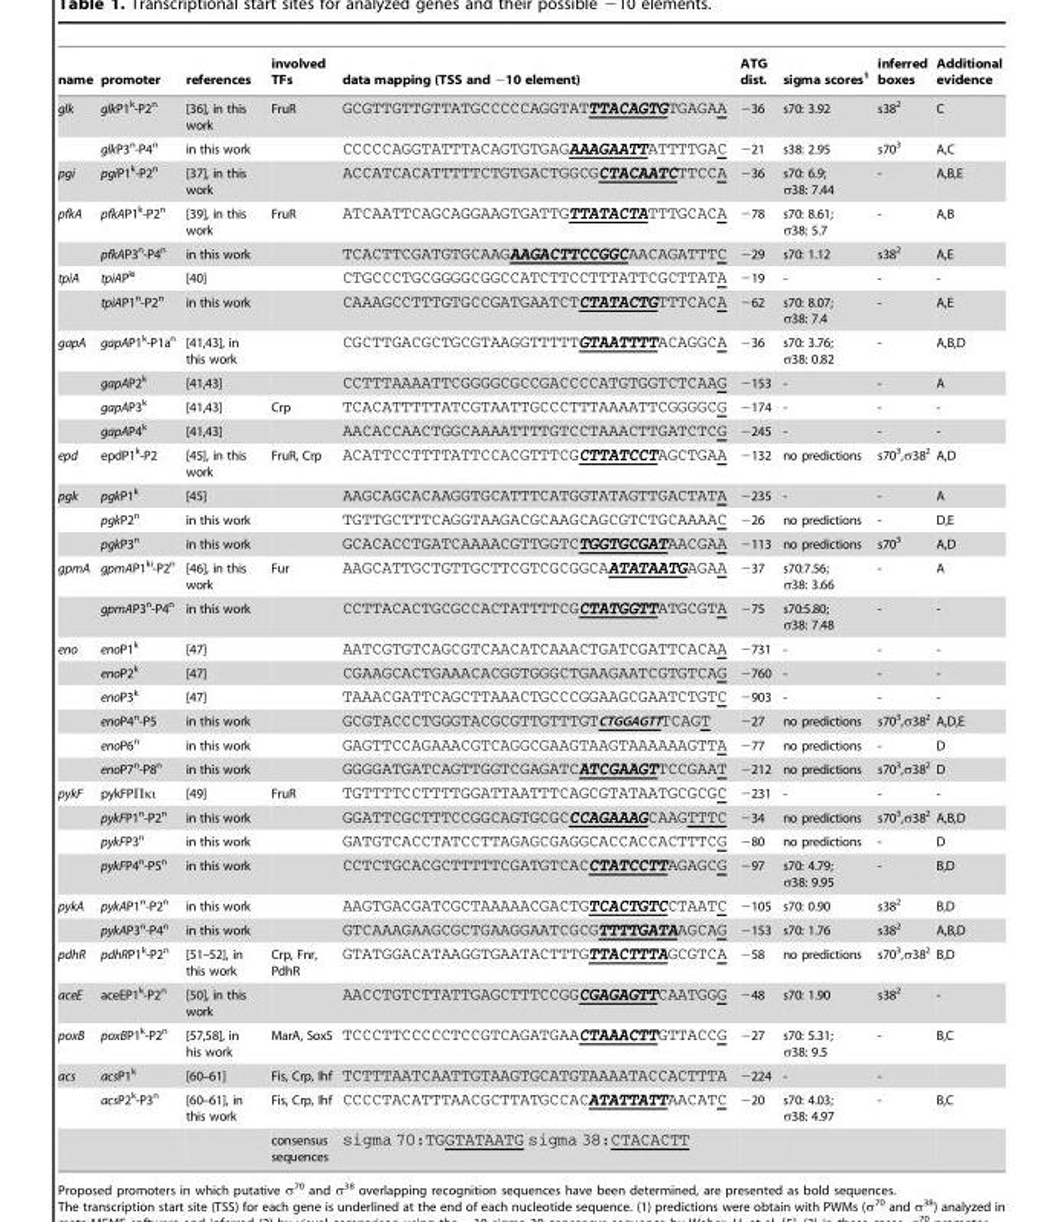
<table><thead><tr><td>name</td><td>promoter</td><td>references</td><td>involved TFs</td><td>data mapping (TSS and −10 element)</td><td>ATG dist.</td><td>sigma scores<sup>1</sup></td><td>inferred boxes</td><td>Additional evidence</td></tr></thead><tbody><tr><td rowspan="2">glk</td><td>glkP1<sup>k</sup>-P2<sup>n</sup></td><td>[36], in this work</td><td>FruR</td><td>GCGTTGTTGTTATGCCCCCAGGTATTTACAGTGTGAGAA</td><td>−36</td><td>s70: 3.92</td><td>s38<sup>2</sup></td><td>C</td></tr><tr><td>glkP3<sup>n</sup>-P4<sup>n</sup></td><td>in this work</td><td></td><td>CCCCCAGGTATTTACAGTGTGAGAAAGAATTATTTTGAC</td><td>−21</td><td>s38: 2.95</td><td>s70<sup>3</sup></td><td>A,C</td></tr><tr><td>pgi</td><td>pgiP1<sup>k</sup>-P2<sup>n</sup></td><td>[37], in this work</td><td></td><td>ACCATCACATTTTTCTGTGACTGGCGCTACAATCTTCCA</td><td>−36</td><td>s70: 6.9; σ38: 7.44</td><td>-</td><td>A,B,E</td></tr><tr><td rowspan="2">pfkA</td><td>pfkAP1<sup>k</sup>-P2<sup>n</sup></td><td>[39], in this work</td><td>FruR</td><td>ATCAATTCAGCAGGAAGTGATTGTTATACTATTTGCACA</td><td>−78</td><td>s70: 8.61; σ38: 5.7</td><td>-</td><td>A,B</td></tr><tr><td>pfkAP3<sup>n</sup>-P4<sup>n</sup></td><td>in this work</td><td></td><td>TCACTTCGATGTGCAAGAAGACTTCCGGCAACAGATTTC</td><td>−29</td><td>s70: 1.12</td><td>s38<sup>2</sup></td><td>A,E</td></tr><tr><td rowspan="2">tpiA</td><td>tpiAP<sup>ki</sup></td><td>[40]</td><td></td><td>CTGCCCTGCGGGGCGGCCATCTTCCTTTATTCGCTTATA</td><td>−19</td><td>-</td><td>-</td><td>-</td></tr><tr><td>tpiAP1<sup>n</sup>-P2<sup>n</sup></td><td>in this work</td><td></td><td>CAAAGCCTTTGTGCCGATGAATCTCTATACTGTTTCACA</td><td>−62</td><td>s70: 8.07; σ38: 7.4</td><td>-</td><td>A,E</td></tr><tr><td rowspan="4">gapA</td><td>gapAP1<sup>k</sup>-P1a<sup>n</sup></td><td>[41,43], in this work</td><td></td><td>CGCTTGACGCTGCGTAAGGTTTTTGTAATTTTACAGGCA</td><td>−36</td><td>s70: 3.76; σ38: 0.82</td><td>-</td><td>A,B,D</td></tr><tr><td>gapAP2<sup>k</sup></td><td>[41,43]</td><td></td><td>CCTTTAAAATTCGGGGCGCCGACCCCATGTGGTCTCAAG</td><td>−153</td><td>-</td><td>-</td><td>A</td></tr><tr><td>gapAP3<sup>k</sup></td><td>[41,43]</td><td>Crp</td><td>TCACATTTTTATCGTAATTGCCCTTTAAAATTCGGGGCG</td><td>−174</td><td>-</td><td>-</td><td>-</td></tr><tr><td>gapAP4<sup>k</sup></td><td>[41,43]</td><td></td><td>AACACCAACTGGCAAAATTTTGTCCTAAACTTGATCTCG</td><td>−245</td><td>-</td><td>-</td><td>-</td></tr><tr><td>epd</td><td>epdP1<sup>k</sup>-P2</td><td>[45], in this work</td><td>FruR, Crp</td><td>ACATTCCTTTTATTCCACGTTTCGCTTATCCTAGCTGAA</td><td>−132</td><td>no predictions</td><td>s70<sup>3</sup>,σ38<sup>2</sup></td><td>A,D</td></tr><tr><td rowspan="3">pgk</td><td>pgkP1<sup>k</sup></td><td>[45]</td><td></td><td>AAGCAGCACAAGGTGCATTTCATGGTATAGTTGACTATA</td><td>−235</td><td>-</td><td>-</td><td>A</td></tr><tr><td>pgkP2<sup>n</sup></td><td>in this work</td><td></td><td>TGTTGCTTTCAGGTAAGACGCAAGCAGCGTCTGCAAAAC</td><td>−26</td><td>no predictions</td><td>-</td><td>D,E</td></tr><tr><td>pgkP3<sup>n</sup></td><td>in this work</td><td></td><td>GCACACCTGATCAAAACGTTGGTCTGGTGCGATAACGAA</td><td>−113</td><td>no predictions</td><td>s70<sup>3</sup></td><td>A,D</td></tr><tr><td rowspan="2">gpmA</td><td>gpmAP1<sup>ki</sup>-P2<sup>n</sup></td><td>[46], in this work</td><td>Fur</td><td>AAGCATTGCTGTTGCTTCGTCGCGGCAATATAATGAGAA</td><td>−37</td><td>s70:7.56; σ38: 3.66</td><td>-</td><td>A</td></tr><tr><td>gpmAP3<sup>n</sup>-P4<sup>n</sup></td><td>in this work</td><td></td><td>CCTTACACTGCGCCACTATTTTCGCTATGGTTATGCGTA</td><td>−75</td><td>s70:5.80; σ38: 7.48</td><td>-</td><td>-</td></tr><tr><td rowspan="6">eno</td><td>enoP1<sup>k</sup></td><td>[47]</td><td></td><td>AATCGTGTCAGCGTCAACATCAAACTGATCGATTCACAA</td><td>−731</td><td>-</td><td>-</td><td>-</td></tr><tr><td>enoP2<sup>k</sup></td><td>[47]</td><td></td><td>CGAAGCACTGAAACACGGTGGGCTGAAGAATCGTGTCAG</td><td>−760</td><td>-</td><td>-</td><td>-</td></tr><tr><td>enoP3<sup>k</sup></td><td>[47]</td><td></td><td>TAAACGATTCAGCTTAAACTGCCCGGAAGCGAATCTGTC</td><td>−903</td><td>-</td><td>-</td><td>-</td></tr><tr><td>enoP4<sup>n</sup>-P5</td><td>in this work</td><td></td><td>GCGTACCCTGGGTACGCGTTGTTTGTCTGGAGTTTCAGT</td><td>−27</td><td>no predictions</td><td>s70<sup>3</sup>,σ38<sup>2</sup></td><td>A,D,E</td></tr><tr><td>enoP6<sup>n</sup></td><td>in this work</td><td></td><td>GAGTTCCAGAAACGTCAGGCGAAGTAAGTAAAAAAGTTA</td><td>−77</td><td>no predictions</td><td>-</td><td>D</td></tr><tr><td>enoP7<sup>n</sup>-P8<sup>n</sup></td><td>in this work</td><td></td><td>GGGGATGATCAGTTGGTCGAGATCATCGAAGTTCCGAAT</td><td>−212</td><td>no predictions</td><td>s70<sup>3</sup>,σ38<sup>2</sup></td><td>D</td></tr><tr><td rowspan="4">pykF</td><td>pykFPΠκι</td><td>[49]</td><td>FruR</td><td>TGTTTTCCTTTTGGATTAATTTCAGCGTATAATGCGCGC</td><td>−231</td><td>-</td><td>-</td><td>-</td></tr><tr><td>pykFP1<sup>n</sup>-P2<sup>n</sup></td><td>in this work</td><td></td><td>GGATTCGCTTTCCGGCAGTGCGCCCAGAAAGCAAGTTTC</td><td>−34</td><td>no predictions</td><td>s70<sup>3</sup>,σ38<sup>2</sup></td><td>A,B,D</td></tr><tr><td>pykFP3<sup>n</sup></td><td>in this work</td><td></td><td>GATGTCACCTATCCTTAGAGCGAGGCACCACCACTTTCG</td><td>−80</td><td>no predictions</td><td>-</td><td>D</td></tr><tr><td>pykFP4<sup>n</sup>-P5<sup>n</sup></td><td>in this work</td><td></td><td>CCTCTGCACGCTTTTTCGATGTCACCTATCCTTAGAGCG</td><td>−97</td><td>s70: 4.79; σ38: 9.95</td><td>-</td><td>B,D</td></tr><tr><td rowspan="2">pykA</td><td>pykAP1<sup>n</sup>-P2<sup>n</sup></td><td>in this work</td><td></td><td>AAGTGACGATCGCTAAAAACGACTGTCACTGTCCTAATC</td><td>−105</td><td>s70: 0.90</td><td>s38<sup>2</sup></td><td>B,D</td></tr><tr><td>pykAP3<sup>n</sup>-P4<sup>n</sup></td><td>in this work</td><td></td><td>GTCAAAGAAGCGCTGAAGGAATCGCGTTTTGATAAGCAG</td><td>−153</td><td>s70: 1.76</td><td>s38<sup>2</sup></td><td>A,B,D</td></tr><tr><td>pdhR</td><td>pdhRP1<sup>k</sup>-P2<sup>n</sup></td><td>[51–52], in this work</td><td>Crp, Fnr, PdhR</td><td>GTATGGACATAAGGTGAATACTTTGTTACTTTAGCGTCA</td><td>−58</td><td>no predictions</td><td>s70<sup>3</sup>,σ38<sup>2</sup></td><td>B,D</td></tr><tr><td>aceE</td><td>aceEP1<sup>k</sup>-P2<sup>n</sup></td><td>[50], in this work</td><td></td><td>AACCTGTCTTATTGAGCTTTCCGGCGAGAGTTCAATGGG</td><td>−48</td><td>s70: 1.90</td><td>s38<sup>2</sup></td><td>-</td></tr><tr><td>poxB</td><td>poxBP1<sup>k</sup>-P2<sup>n</sup></td><td>[57,58], in his work</td><td>MarA, SoxS</td><td>TCCCTTCCCCCTCCGTCAGATGAACTAAACTTGTTACCG</td><td>−27</td><td>s70: 5.31; σ38: 9.5</td><td>-</td><td>B,C</td></tr><tr><td rowspan="3">acs</td><td>acsP1<sup>k</sup></td><td>[60–61]</td><td>Fis, Crp, Ihf</td><td>TCTTTAATCAATTGTAAGTGCATGTAAAATACCACTTTA</td><td>−224</td><td>-</td><td>-</td><td></td></tr><tr><td>acsP2<sup>k</sup>-P3<sup>n</sup></td><td>[60–61], in this work</td><td>Fis, Crp, Ihf</td><td>CCCCTACATTTAACGCTTATGCCACATATTATTAACATC</td><td>−20</td><td>s70: 4.03; σ38: 4.97</td><td>-</td><td>B,C</td></tr><tr><td></td><td></td><td>consensus sequences</td><td>sigma 70:TGGTATAATG sigma 38:CTACACTT</td><td></td><td></td><td></td><td></td></tr></tbody></table>